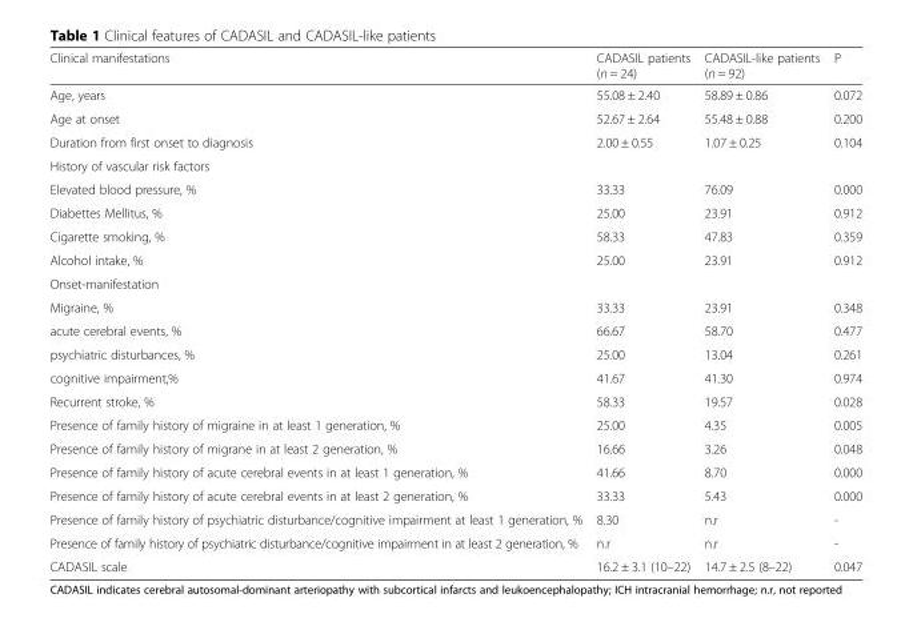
<table><thead><tr><td>Clinical manifestations</td><td>CADASIL patients (n = 24)</td><td>CADASIL-like patients (n = 92)</td><td>P</td></tr></thead><tbody><tr><td>Age, years</td><td>55.08 ± 2.40</td><td>58.89 ± 0.86</td><td>0.072</td></tr><tr><td>Age at onset</td><td>52.67 ± 2.64</td><td>55.48 ± 0.88</td><td>0.200</td></tr><tr><td>Duration from first onset to diagnosis</td><td>2.00 ± 0.55</td><td>1.07 ± 0.25</td><td>0.104</td></tr><tr><td colspan="4">History of vascular risk factors</td></tr><tr><td>Elevated blood pressure, %</td><td>33.33</td><td>76.09</td><td>0.000</td></tr><tr><td>Diabettes Mellitus, %</td><td>25.00</td><td>23.91</td><td>0.912</td></tr><tr><td>Cigarette smoking, %</td><td>58.33</td><td>47.83</td><td>0.359</td></tr><tr><td>Alcohol intake, %</td><td>25.00</td><td>23.91</td><td>0.912</td></tr><tr><td colspan="4">Onset-manifestation</td></tr><tr><td>Migraine, %</td><td>33.33</td><td>23.91</td><td>0.348</td></tr><tr><td>acute cerebral events, %</td><td>66.67</td><td>58.70</td><td>0.477</td></tr><tr><td>psychiatric disturbances, %</td><td>25.00</td><td>13.04</td><td>0.261</td></tr><tr><td>cognitive impairment,%</td><td>41.67</td><td>41.30</td><td>0.974</td></tr><tr><td>Recurrent stroke, %</td><td>58.33</td><td>19.57</td><td>0.028</td></tr><tr><td>Presence of family history of migraine in at least 1 generation, %</td><td>25.00</td><td>4.35</td><td>0.005</td></tr><tr><td>Presence of family history of migrane in at least 2 generation, %</td><td>16.66</td><td>3.26</td><td>0.048</td></tr><tr><td>Presence of family history of acute cerebral events in at least 1 generation, %</td><td>41.66</td><td>8.70</td><td>0.000</td></tr><tr><td>Presence of family history of acute cerebral events in at least 2 generation, %</td><td>33.33</td><td>5.43</td><td>0.000</td></tr><tr><td>Presence of family history of psychiatric disturbance/cognitive impairment at least 1 generation, %</td><td>8.30</td><td>n.r</td><td>-</td></tr><tr><td>Presence of family history of psychiatric disturbance/cognitive impairment in at least 2 generation, %</td><td>n.r</td><td>n.r</td><td>-</td></tr><tr><td>CADASIL scale</td><td>16.2 ± 3.1 (10–22)</td><td>14.7 ± 2.5 (8–22)</td><td>0.047</td></tr></tbody></table>